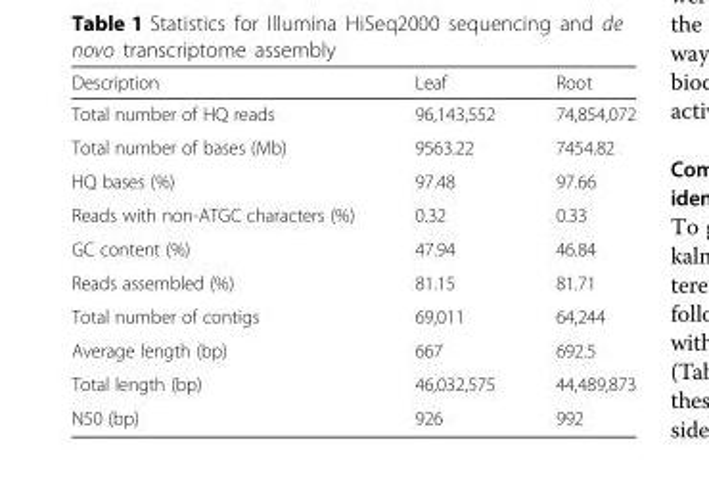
<table><thead><tr><td>Description</td><td>Leaf</td><td>Root</td></tr></thead><tbody><tr><td>Total number of HQ reads</td><td>96,143,552</td><td>74,854,072</td></tr><tr><td>Total number of bases (Mb)</td><td>9563.22</td><td>7454.82</td></tr><tr><td>HQ bases (%)</td><td>97.48</td><td>97.66</td></tr><tr><td>Reads with non-ATGC characters (%)</td><td>0.32</td><td>0.33</td></tr><tr><td>GC content (%)</td><td>47.94</td><td>46.84</td></tr><tr><td>Reads assembled (%)</td><td>81.15</td><td>81.71</td></tr><tr><td>Total number of contigs</td><td>69,011</td><td>64,244</td></tr><tr><td>Average length (bp)</td><td>667</td><td>692.5</td></tr><tr><td>Total length (bp)</td><td>46,032,575</td><td>44,489,873</td></tr><tr><td>N50 (bp)</td><td>926</td><td>992</td></tr></tbody></table>